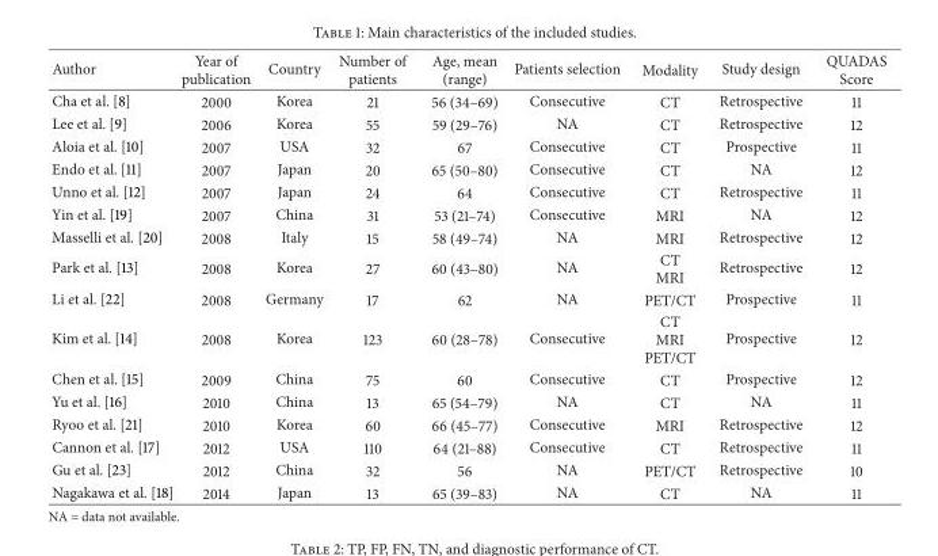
<table><thead><tr><td>Author</td><td>Year of publication</td><td>Country</td><td>Number of patients</td><td>Age, mean (range)</td><td>Patients selection</td><td>Modality</td><td>Study design</td><td>QUADAS Score</td></tr></thead><tbody><tr><td>Cha et al. [8]</td><td>2000</td><td>Korea</td><td>21</td><td>56 (34–69)</td><td>Consecutive</td><td>CT</td><td>Retrospective</td><td>11</td></tr><tr><td>Lee et al. [9]</td><td>2006</td><td>Korea</td><td>55</td><td>59 (29–76)</td><td>NA</td><td>CT</td><td>Retrospective</td><td>12</td></tr><tr><td>Aloia et al. [10]</td><td>2007</td><td>USA</td><td>32</td><td>67</td><td>Consecutive</td><td>CT</td><td>Prospective</td><td>11</td></tr><tr><td>Endo et al. [11]</td><td>2007</td><td>Japan</td><td>20</td><td>65 (50–80)</td><td>Consecutive</td><td>CT</td><td>NA</td><td>12</td></tr><tr><td>Unno et al. [12]</td><td>2007</td><td>Japan</td><td>24</td><td>64</td><td>Consecutive</td><td>CT</td><td>Retrospective</td><td>11</td></tr><tr><td>Yin et al. [19]</td><td>2007</td><td>China</td><td>31</td><td>53 (21–74)</td><td>Consecutive</td><td>MRI</td><td>NA</td><td>12</td></tr><tr><td>Masselli et al. [20]</td><td>2008</td><td>Italy</td><td>15</td><td>58 (49–74)</td><td>NA</td><td>MRI</td><td>Retrospective</td><td>12</td></tr><tr><td>Park et al. [13]</td><td>2008</td><td>Korea</td><td>27</td><td>60 (43–80)</td><td>NA</td><td>CT MRI</td><td>Retrospective</td><td>12</td></tr><tr><td>Li et al. [22]</td><td>2008</td><td>Germany</td><td>17</td><td>62</td><td>NA</td><td>PET/CT</td><td>Prospective</td><td>11</td></tr><tr><td>Kim et al. [14]</td><td>2008</td><td>Korea</td><td>123</td><td>60 (28–78)</td><td>Consecutive</td><td>CT MRI PET/CT</td><td>Prospective</td><td>12</td></tr><tr><td>Chen et al. [15]</td><td>2009</td><td>China</td><td>75</td><td>60</td><td>Consecutive</td><td>CT</td><td>Prospective</td><td>12</td></tr><tr><td>Yu et al. [16]</td><td>2010</td><td>China</td><td>13</td><td>65 (54–79)</td><td>NA</td><td>CT</td><td>NA</td><td>11</td></tr><tr><td>Ryoo et al. [21]</td><td>2010</td><td>Korea</td><td>60</td><td>66 (45–77)</td><td>Consecutive</td><td>MRI</td><td>Retrospective</td><td>12</td></tr><tr><td>Cannon et al. [17]</td><td>2012</td><td>USA</td><td>110</td><td>64 (21–88)</td><td>Consecutive</td><td>CT</td><td>Retrospective</td><td>11</td></tr><tr><td>Gu et al. [23]</td><td>2012</td><td>China</td><td>32</td><td>56</td><td>NA</td><td>PET/CT</td><td>Retrospective</td><td>10</td></tr><tr><td>Nagakawa et al. [18]</td><td>2014</td><td>Japan</td><td>13</td><td>65 (39–83)</td><td>NA</td><td>CT</td><td>NA</td><td>11</td></tr></tbody></table>